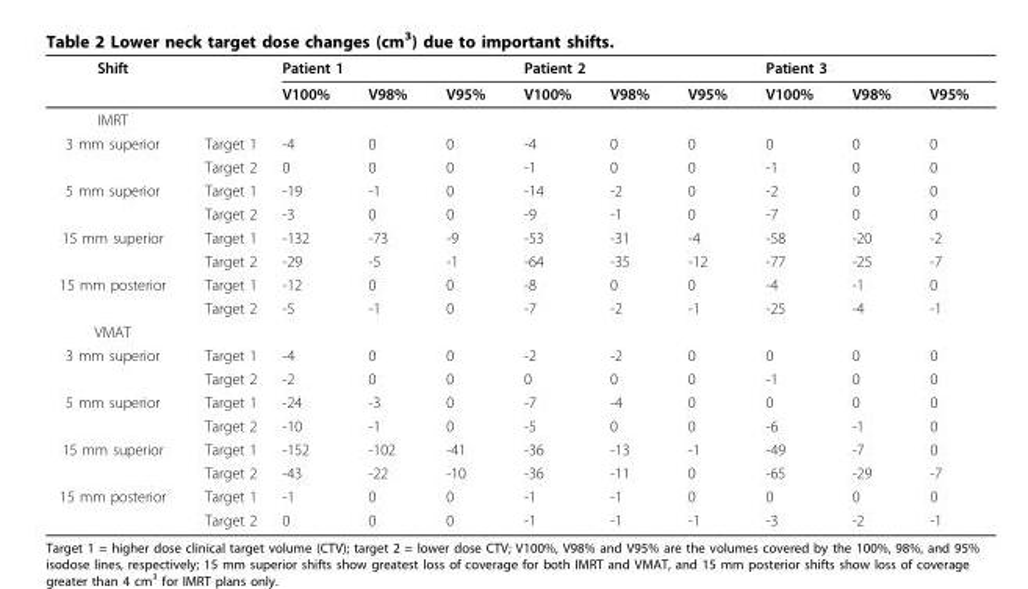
<table><thead><tr><td rowspan="2">Shift</td><td rowspan="2"></td><td colspan="3">Patient 1</td><td colspan="3">Patient 2</td><td colspan="3">Patient 3</td></tr><tr><td>V100%</td><td>V98%</td><td>V95%</td><td>V100%</td><td>V98%</td><td>V95%</td><td>V100%</td><td>V98%</td><td>V95%</td></tr></thead><tbody><tr><td colspan="11">IMRT</td></tr><tr><td rowspan="2">3 mm superior</td><td>Target 1</td><td>-4</td><td>0</td><td>0</td><td>-4</td><td>0</td><td>0</td><td>0</td><td>0</td><td>0</td></tr><tr><td>Target 2</td><td>0</td><td>0</td><td>0</td><td>-1</td><td>0</td><td>0</td><td>-1</td><td>0</td><td>0</td></tr><tr><td rowspan="2">5 mm superior</td><td>Target 1</td><td>-19</td><td>-1</td><td>0</td><td>-14</td><td>-2</td><td>0</td><td>-2</td><td>0</td><td>0</td></tr><tr><td>Target 2</td><td>-3</td><td>0</td><td>0</td><td>-9</td><td>-1</td><td>0</td><td>-7</td><td>0</td><td>0</td></tr><tr><td rowspan="2">15 mm superior</td><td>Target 1</td><td>-132</td><td>-73</td><td>-9</td><td>-53</td><td>-31</td><td>-4</td><td>-58</td><td>-20</td><td>-2</td></tr><tr><td>Target 2</td><td>-29</td><td>-5</td><td>-1</td><td>-64</td><td>-35</td><td>-12</td><td>-77</td><td>-25</td><td>-7</td></tr><tr><td rowspan="2">15 mm posterior</td><td>Target 1</td><td>-12</td><td>0</td><td>0</td><td>-8</td><td>0</td><td>0</td><td>-4</td><td>-1</td><td>0</td></tr><tr><td>Target 2</td><td>-5</td><td>-1</td><td>0</td><td>-7</td><td>-2</td><td>-1</td><td>-25</td><td>-4</td><td>-1</td></tr><tr><td colspan="11">VMAT</td></tr><tr><td rowspan="2">3 mm superior</td><td>Target 1</td><td>-4</td><td>0</td><td>0</td><td>-2</td><td>-2</td><td>0</td><td>0</td><td>0</td><td>0</td></tr><tr><td>Target 2</td><td>-2</td><td>0</td><td>0</td><td>0</td><td>0</td><td>0</td><td>-1</td><td>0</td><td>0</td></tr><tr><td rowspan="2">5 mm superior</td><td>Target 1</td><td>-24</td><td>-3</td><td>0</td><td>-7</td><td>-4</td><td>0</td><td>0</td><td>0</td><td>0</td></tr><tr><td>Target 2</td><td>-10</td><td>-1</td><td>0</td><td>-5</td><td>0</td><td>0</td><td>-6</td><td>-1</td><td>0</td></tr><tr><td rowspan="2">15 mm superior</td><td>Target 1</td><td>-152</td><td>-102</td><td>-41</td><td>-36</td><td>-13</td><td>-1</td><td>-49</td><td>-7</td><td>0</td></tr><tr><td>Target 2</td><td>-43</td><td>-22</td><td>-10</td><td>-36</td><td>-11</td><td>0</td><td>-65</td><td>-29</td><td>-7</td></tr><tr><td rowspan="2">15 mm posterior</td><td>Target 1</td><td>-1</td><td>0</td><td>0</td><td>-1</td><td>-1</td><td>0</td><td>0</td><td>0</td><td>0</td></tr><tr><td>Target 2</td><td>0</td><td>0</td><td>0</td><td>-1</td><td>-1</td><td>-1</td><td>-3</td><td>-2</td><td>-1</td></tr></tbody></table>